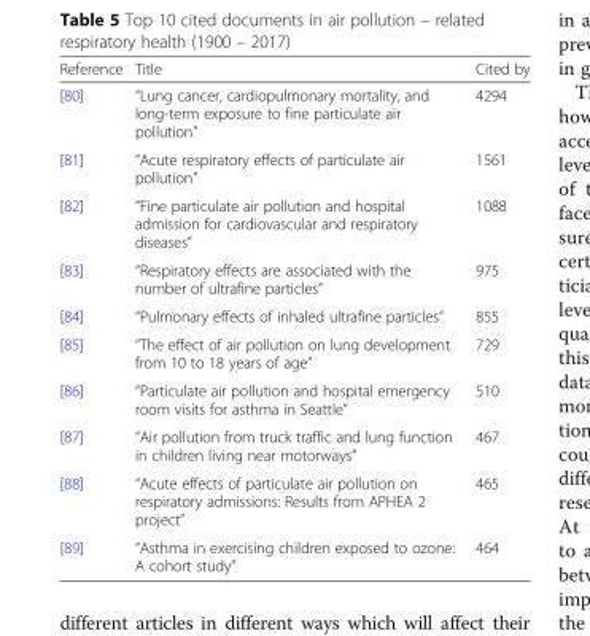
<table><thead><tr><td>Reference</td><td>Title</td><td>Cited by</td></tr></thead><tbody><tr><td>[80]</td><td>“Lung cancer, cardiopulmonary mortality, and long-term exposure to fine particulate air pollution”</td><td>4294</td></tr><tr><td>[81]</td><td>“Acute respiratory effects of particulate air pollution”</td><td>1561</td></tr><tr><td>[82]</td><td>“Fine particulate air pollution and hospital admission for cardiovascular and respiratory diseases”</td><td>1088</td></tr><tr><td>[83]</td><td>“Respiratory effects are associated with the number of ultrafine particles”</td><td>975</td></tr><tr><td>[84]</td><td>“Pulmonary effects of inhaled ultrafine particles”</td><td>855</td></tr><tr><td>[85]</td><td>“The effect of air pollution on lung development from 10 to 18 years of age”</td><td>729</td></tr><tr><td>[86]</td><td>“Particulate air pollution and hospital emergency room visits for asthma in Seattle”</td><td>510</td></tr><tr><td>[87]</td><td>“Air pollution from truck traffic and lung function in children living near motorways”</td><td>467</td></tr><tr><td>[88]</td><td>“Acute effects of particulate air pollution on respiratory admissions: Results from APHEA 2 project”</td><td>465</td></tr><tr><td>[89]</td><td>“Asthma in exercising children exposed to ozone: A cohort study”</td><td>464</td></tr></tbody></table>